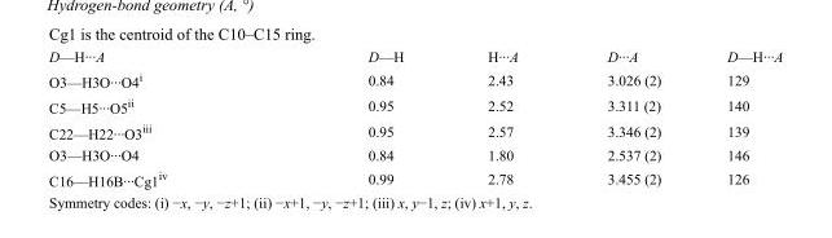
<table><tbody><tr><td>D—H···A</td><td>D—H</td><td>H···A</td><td>D···A</td><td>D—H···A</td></tr><tr><td>O3—H3O···O4<sup>i</sup></td><td>0.84</td><td>2.43</td><td>3.026 (2)</td><td>129</td></tr><tr><td>C5—H5···O5<sup>ii</sup></td><td>0.95</td><td>2.52</td><td>3.311 (2)</td><td>140</td></tr><tr><td>C22—H22···O3<sup>iii</sup></td><td>0.95</td><td>2.57</td><td>3.346 (2)</td><td>139</td></tr><tr><td>O3—H3O···O4</td><td>0.84</td><td>1.80</td><td>2.537 (2)</td><td>146</td></tr><tr><td>C16—H16B···Cg1<sup>iv</sup></td><td>0.99</td><td>2.78</td><td>3.455 (2)</td><td>126</td></tr></tbody></table>